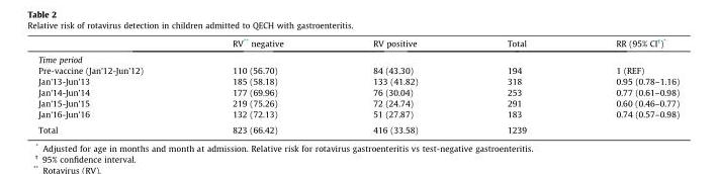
<table><thead><tr><td></td><td>RV** negative</td><td>RV positive</td><td>Total</td><td>RR (95% CIϮ)*</td></tr></thead><tbody><tr><td colspan="5">Time period</td></tr><tr><td>Pre-vaccine (Jan’12-Jun’12)</td><td>110 (56.70)</td><td>84 (43.30)</td><td>194</td><td>1 (REF)</td></tr><tr><td>Jan’13-Jun’13</td><td>185 (58.18)</td><td>133 (41.82)</td><td>318</td><td>0.95 (0.78–1.16)</td></tr><tr><td>Jan’14-Jun’14</td><td>177 (69.96)</td><td>76 (30.04)</td><td>253</td><td>0.77 (0.61–0.98)</td></tr><tr><td>Jan’15-Jun’15</td><td>219 (75.26)</td><td>72 (24.74)</td><td>291</td><td>0.60 (0.46–0.77)</td></tr><tr><td>Jan’16-Jun’16</td><td>132 (72.13)</td><td>51 (27.87)</td><td>183</td><td>0.74 (0.57–0.98)</td></tr><tr><td>Total</td><td>823 (66.42)</td><td>416 (33.58)</td><td>1239</td><td></td></tr></tbody></table>